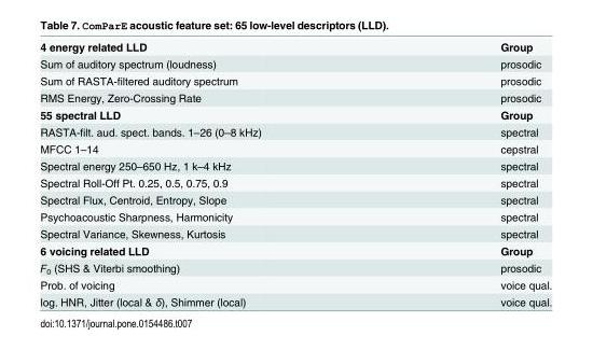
<table><tbody><tr><td>4 energy related LLD</td><td>Group</td></tr><tr><td>Sum of auditory spectrum (loudness)</td><td>prosodic</td></tr><tr><td>Sum of RASTA-filtered auditory spectrum</td><td>prosodic</td></tr><tr><td>RMS Energy, Zero-Crossing Rate</td><td>prosodic</td></tr><tr><td>55 spectral LLD</td><td>Group</td></tr><tr><td>RASTA-filt. aud. spect. bands. 1–26 (0–8 kHz)</td><td>spectral</td></tr><tr><td>MFCC 1–14</td><td>cepstral</td></tr><tr><td>Spectral energy 250–650 Hz, 1 k–4 kHz</td><td>spectral</td></tr><tr><td>Spectral Roll-Off Pt. 0.25, 0.5, 0.75, 0.9</td><td>spectral</td></tr><tr><td>Spectral Flux, Centroid, Entropy, Slope</td><td>spectral</td></tr><tr><td>Psychoacoustic Sharpness, Harmonicity</td><td>spectral</td></tr><tr><td>Spectral Variance, Skewness, Kurtosis</td><td>spectral</td></tr><tr><td>6 voicing related LLD</td><td>Group</td></tr><tr><td>F<sub>0</sub> (SHS &amp; Viterbi smoothing)</td><td>prosodic</td></tr><tr><td>Prob. of voicing</td><td>voice qual.</td></tr><tr><td>log. HNR, Jitter (local &amp; δ), Shimmer (local)</td><td>voice qual.</td></tr></tbody></table>